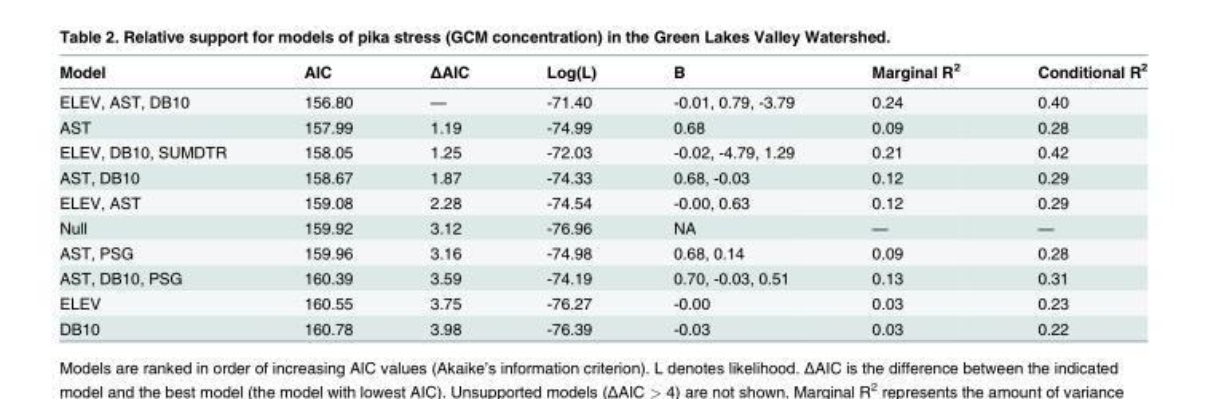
<table><thead><tr><td>Model</td><td>AIC</td><td>ΔAIC</td><td>Log(L)</td><td>B</td><td>Marginal R<sup>2</sup></td><td>Conditional R<sup>2</sup></td></tr></thead><tbody><tr><td>ELEV, AST, DB10</td><td>156.80</td><td>—</td><td>-71.40</td><td>-0.01, 0.79, -3.79</td><td>0.24</td><td>0.40</td></tr><tr><td>AST</td><td>157.99</td><td>1.19</td><td>-74.99</td><td>0.68</td><td>0.09</td><td>0.28</td></tr><tr><td>ELEV, DB10, SUMDTR</td><td>158.05</td><td>1.25</td><td>-72.03</td><td>-0.02, -4.79, 1.29</td><td>0.21</td><td>0.42</td></tr><tr><td>AST, DB10</td><td>158.67</td><td>1.87</td><td>-74.33</td><td>0.68, -0.03</td><td>0.12</td><td>0.29</td></tr><tr><td>ELEV, AST</td><td>159.08</td><td>2.28</td><td>-74.54</td><td>-0.00, 0.63</td><td>0.12</td><td>0.29</td></tr><tr><td>Null</td><td>159.92</td><td>3.12</td><td>-76.96</td><td>NA</td><td>—</td><td>—</td></tr><tr><td>AST, PSG</td><td>159.96</td><td>3.16</td><td>-74.98</td><td>0.68, 0.14</td><td>0.09</td><td>0.28</td></tr><tr><td>AST, DB10, PSG</td><td>160.39</td><td>3.59</td><td>-74.19</td><td>0.70, -0.03, 0.51</td><td>0.13</td><td>0.31</td></tr><tr><td>ELEV</td><td>160.55</td><td>3.75</td><td>-76.27</td><td>-0.00</td><td>0.03</td><td>0.23</td></tr><tr><td>DB10</td><td>160.78</td><td>3.98</td><td>-76.39</td><td>-0.03</td><td>0.03</td><td>0.22</td></tr></tbody></table>